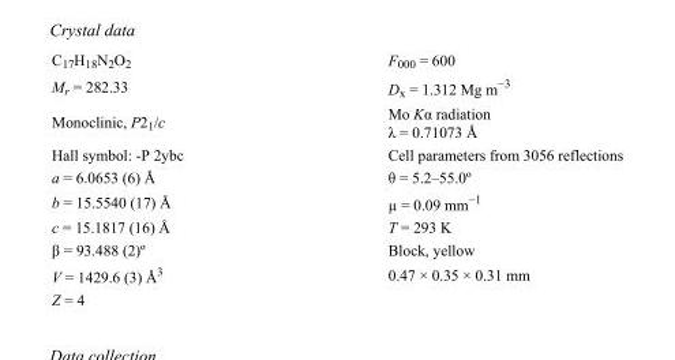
<table><tbody><tr><td>C<sub>17</sub>H<sub>18</sub>N<sub>2</sub>O<sub>2</sub></td><td>F000 = 600</td></tr><tr><td>M<sub>r</sub> = 282.33</td><td>D<sub>x</sub> = 1.312 Mg m<sup>−3</sup></td></tr><tr><td>Monoclinic, P2<sub>1</sub>/c</td><td>Mo Kα radiation λ = 0.71073 Å</td></tr><tr><td>Hall symbol: -P 2ybc</td><td>Cell parameters from 3056 reflections</td></tr><tr><td>a = 6.0653 (6) Å</td><td>θ = 5.2–55.0º</td></tr><tr><td>b = 15.5540 (17) Å</td><td>µ = 0.09 mm<sup>−1</sup></td></tr><tr><td>c = 15.1817 (16) Å</td><td>T = 293 K</td></tr><tr><td>β = 93.488 (2)º</td><td>Block, yellow</td></tr><tr><td>V = 1429.6 (3) Å<sup>3</sup></td><td>0.47 × 0.35 × 0.31 mm</td></tr><tr><td>Z = 4</td><td></td></tr></tbody></table>